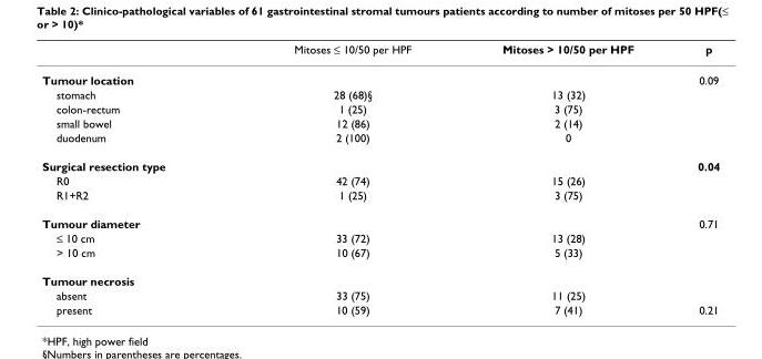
<table><thead><tr><td></td><td>Mitoses ≤ 10/50 per HPF</td><td>Mitoses &gt; 10/50 per HPF</td><td>p</td></tr></thead><tbody><tr><td>Tumour location</td><td></td><td></td><td>0.09</td></tr><tr><td>stomach</td><td>28 (68)§</td><td>13 (32)</td><td></td></tr><tr><td>colon-rectum</td><td>1 (25)</td><td>3 (75)</td><td></td></tr><tr><td>small bowel</td><td>12 (86)</td><td>2 (14)</td><td></td></tr><tr><td>duodenum</td><td>2 (100)</td><td>0</td><td></td></tr><tr><td>Surgical resection type</td><td></td><td></td><td>0.04</td></tr><tr><td>R0</td><td>42 (74)</td><td>15 (26)</td><td></td></tr><tr><td>R1+R2</td><td>1 (25)</td><td>3 (75)</td><td></td></tr><tr><td>Tumour diameter</td><td></td><td></td><td>0.71</td></tr><tr><td>≤ 10 cm</td><td>33 (72)</td><td>13 (28)</td><td></td></tr><tr><td>&gt; 10 cm</td><td>10 (67)</td><td>5 (33)</td><td></td></tr><tr><td colspan="4">Tumour necrosis</td></tr><tr><td>absent</td><td>33 (75)</td><td>11 (25)</td><td></td></tr><tr><td>present</td><td>10 (59)</td><td>7 (41)</td><td>0.21</td></tr></tbody></table>